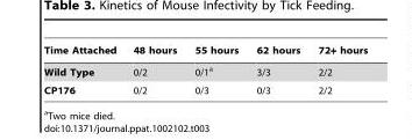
<table><thead><tr><td>Time Attached</td><td>48 hours</td><td>55 hours</td><td>62 hours</td><td>72+ hours</td></tr></thead><tbody><tr><td>Wild Type</td><td>0/2</td><td>0/1<sup>a</sup></td><td>3/3</td><td>2/2</td></tr><tr><td>CP176</td><td>0/2</td><td>0/3</td><td>0/3</td><td>2/2</td></tr></tbody></table>